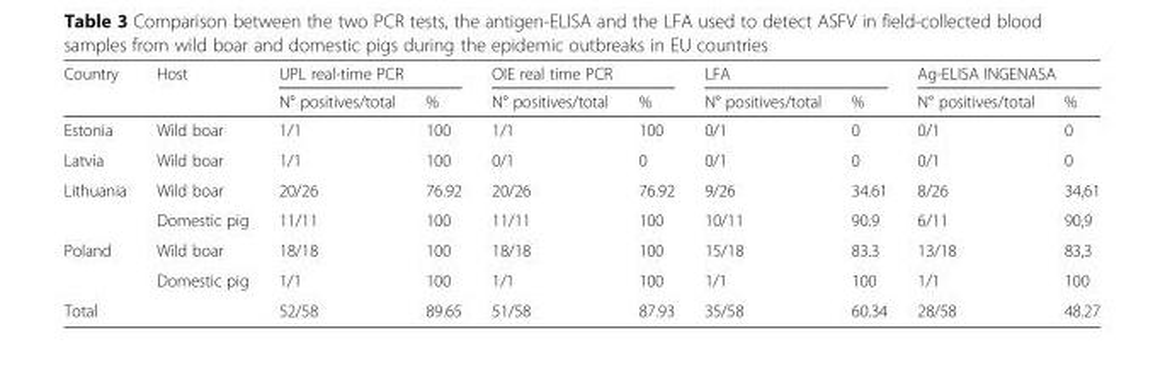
<table><thead><tr><td rowspan="2">Country</td><td rowspan="2">Host</td><td colspan="2">UPL real-time PCR</td><td colspan="2">OIE real time PCR</td><td colspan="2">LFA</td><td colspan="2">Ag-ELISA INGENASA</td></tr><tr><td>N° positives/total</td><td>%</td><td>N° positives/total</td><td>%</td><td>N° positives/total</td><td>%</td><td>N° positives/total</td><td>%</td></tr></thead><tbody><tr><td>Estonia</td><td>Wild boar</td><td>1/1</td><td>100</td><td>1/1</td><td>100</td><td>0/1</td><td>0</td><td>0/1</td><td>0</td></tr><tr><td>Latvia</td><td>Wild boar</td><td>1/1</td><td>100</td><td>0/1</td><td>0</td><td>0/1</td><td>0</td><td>0/1</td><td>0</td></tr><tr><td rowspan="2">Lithuania</td><td>Wild boar</td><td>20/26</td><td>76.92</td><td>20/26</td><td>76.92</td><td>9/26</td><td>34.61</td><td>8/26</td><td>34,61</td></tr><tr><td>Domestic pig</td><td>11/11</td><td>100</td><td>11/11</td><td>100</td><td>10/11</td><td>90.9</td><td>6/11</td><td>90,9</td></tr><tr><td rowspan="2">Poland</td><td>Wild boar</td><td>18/18</td><td>100</td><td>18/18</td><td>100</td><td>15/18</td><td>83.3</td><td>13/18</td><td>83,3</td></tr><tr><td>Domestic pig</td><td>1/1</td><td>100</td><td>1/1</td><td>100</td><td>1/1</td><td>100</td><td>1/1</td><td>100</td></tr><tr><td colspan="2">Total</td><td>52/58</td><td>89.65</td><td>51/58</td><td>87.93</td><td>35/58</td><td>60.34</td><td>28/58</td><td>48.27</td></tr></tbody></table>